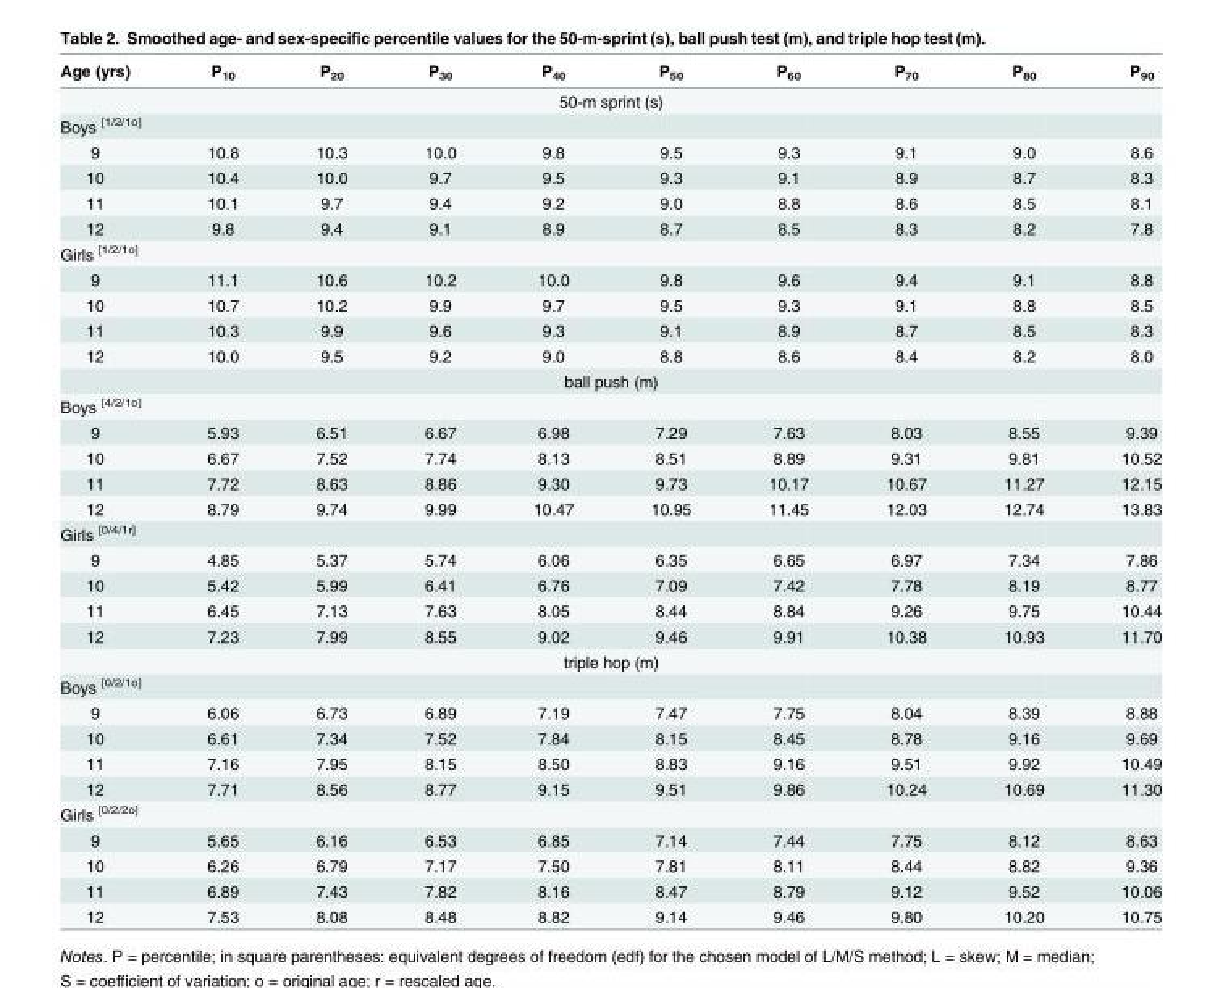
<table><thead><tr><td>Age (yrs)</td><td>P<sub>10</sub></td><td>P<sub>20</sub></td><td>P<sub>30</sub></td><td>P<sub>40</sub></td><td>P<sub>50</sub></td><td>P<sub>60</sub></td><td>P<sub>70</sub></td><td>P<sub>80</sub></td><td>P<sub>90</sub></td></tr></thead><tbody><tr><td colspan="10">50-m sprint (s)</td></tr><tr><td colspan="10">Boys <sup>[1/2/1o]</sup></td></tr><tr><td>9</td><td>10.8</td><td>10.3</td><td>10.0</td><td>9.8</td><td>9.5</td><td>9.3</td><td>9.1</td><td>9.0</td><td>8.6</td></tr><tr><td>10</td><td>10.4</td><td>10.0</td><td>9.7</td><td>9.5</td><td>9.3</td><td>9.1</td><td>8.9</td><td>8.7</td><td>8.3</td></tr><tr><td>11</td><td>10.1</td><td>9.7</td><td>9.4</td><td>9.2</td><td>9.0</td><td>8.8</td><td>8.6</td><td>8.5</td><td>8.1</td></tr><tr><td>12</td><td>9.8</td><td>9.4</td><td>9.1</td><td>8.9</td><td>8.7</td><td>8.5</td><td>8.3</td><td>8.2</td><td>7.8</td></tr><tr><td colspan="10">Girls <sup>[1/2/1o]</sup></td></tr><tr><td>9</td><td>11.1</td><td>10.6</td><td>10.2</td><td>10.0</td><td>9.8</td><td>9.6</td><td>9.4</td><td>9.1</td><td>8.8</td></tr><tr><td>10</td><td>10.7</td><td>10.2</td><td>9.9</td><td>9.7</td><td>9.5</td><td>9.3</td><td>9.1</td><td>8.8</td><td>8.5</td></tr><tr><td>11</td><td>10.3</td><td>9.9</td><td>9.6</td><td>9.3</td><td>9.1</td><td>8.9</td><td>8.7</td><td>8.5</td><td>8.3</td></tr><tr><td>12</td><td>10.0</td><td>9.5</td><td>9.2</td><td>9.0</td><td>8.8</td><td>8.6</td><td>8.4</td><td>8.2</td><td>8.0</td></tr><tr><td colspan="10">ball push (m)</td></tr><tr><td colspan="10">Boys <sup>[4/2/1o]</sup></td></tr><tr><td>9</td><td>5.93</td><td>6.51</td><td>6.67</td><td>6.98</td><td>7.29</td><td>7.63</td><td>8.03</td><td>8.55</td><td>9.39</td></tr><tr><td>10</td><td>6.67</td><td>7.52</td><td>7.74</td><td>8.13</td><td>8.51</td><td>8.89</td><td>9.31</td><td>9.81</td><td>10.52</td></tr><tr><td>11</td><td>7.72</td><td>8.63</td><td>8.86</td><td>9.30</td><td>9.73</td><td>10.17</td><td>10.67</td><td>11.27</td><td>12.15</td></tr><tr><td>12</td><td>8.79</td><td>9.74</td><td>9.99</td><td>10.47</td><td>10.95</td><td>11.45</td><td>12.03</td><td>12.74</td><td>13.83</td></tr><tr><td colspan="10">Girls <sup>[0/4/1r]</sup></td></tr><tr><td>9</td><td>4.85</td><td>5.37</td><td>5.74</td><td>6.06</td><td>6.35</td><td>6.65</td><td>6.97</td><td>7.34</td><td>7.86</td></tr><tr><td>10</td><td>5.42</td><td>5.99</td><td>6.41</td><td>6.76</td><td>7.09</td><td>7.42</td><td>7.78</td><td>8.19</td><td>8.77</td></tr><tr><td>11</td><td>6.45</td><td>7.13</td><td>7.63</td><td>8.05</td><td>8.44</td><td>8.84</td><td>9.26</td><td>9.75</td><td>10.44</td></tr><tr><td>12</td><td>7.23</td><td>7.99</td><td>8.55</td><td>9.02</td><td>9.46</td><td>9.91</td><td>10.38</td><td>10.93</td><td>11.70</td></tr><tr><td colspan="10">triple hop (m)</td></tr><tr><td colspan="10">Boys <sup>[0/2/1o]</sup></td></tr><tr><td>9</td><td>6.06</td><td>6.73</td><td>6.89</td><td>7.19</td><td>7.47</td><td>7.75</td><td>8.04</td><td>8.39</td><td>8.88</td></tr><tr><td>10</td><td>6.61</td><td>7.34</td><td>7.52</td><td>7.84</td><td>8.15</td><td>8.45</td><td>8.78</td><td>9.16</td><td>9.69</td></tr><tr><td>11</td><td>7.16</td><td>7.95</td><td>8.15</td><td>8.50</td><td>8.83</td><td>9.16</td><td>9.51</td><td>9.92</td><td>10.49</td></tr><tr><td>12</td><td>7.71</td><td>8.56</td><td>8.77</td><td>9.15</td><td>9.51</td><td>9.86</td><td>10.24</td><td>10.69</td><td>11.30</td></tr><tr><td colspan="10">Girls <sup>[0/2/2o]</sup></td></tr><tr><td>9</td><td>5.65</td><td>6.16</td><td>6.53</td><td>6.85</td><td>7.14</td><td>7.44</td><td>7.75</td><td>8.12</td><td>8.63</td></tr><tr><td>10</td><td>6.26</td><td>6.79</td><td>7.17</td><td>7.50</td><td>7.81</td><td>8.11</td><td>8.44</td><td>8.82</td><td>9.36</td></tr><tr><td>11</td><td>6.89</td><td>7.43</td><td>7.82</td><td>8.16</td><td>8.47</td><td>8.79</td><td>9.12</td><td>9.52</td><td>10.06</td></tr><tr><td>12</td><td>7.53</td><td>8.08</td><td>8.48</td><td>8.82</td><td>9.14</td><td>9.46</td><td>9.80</td><td>10.20</td><td>10.75</td></tr></tbody></table>